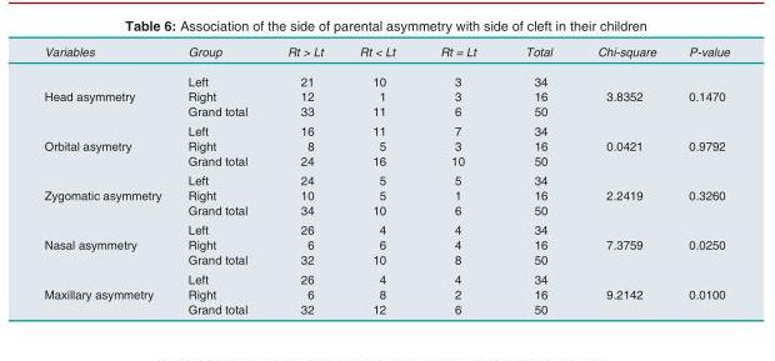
<table><tbody><tr><td rowspan="2">Variables</td><td>Group</td><td>Rt &gt; Lt</td><td>Rt &lt; Lt</td><td>Rt = Lt</td><td>Total</td><td>Chi-square</td><td>P-value</td></tr><tr><td>Left</td><td>21</td><td>10</td><td>3</td><td>34</td><td></td><td></td></tr><tr><td rowspan="3">Head asymmetry</td><td>Right</td><td>12</td><td>1</td><td>3</td><td>16</td><td>3.8352</td><td>0.1470</td></tr><tr><td>Grand total</td><td>33</td><td>11</td><td>6</td><td>50</td><td></td><td></td></tr><tr><td>Left</td><td>16</td><td>11</td><td>7</td><td>34</td><td></td><td></td></tr><tr><td rowspan="3">Orbital asymetry</td><td>Right</td><td>8</td><td>5</td><td>3</td><td>16</td><td>0.0421</td><td>0.9792</td></tr><tr><td>Grand total</td><td>24</td><td>16</td><td>10</td><td>50</td><td></td><td></td></tr><tr><td>Left</td><td>24</td><td>5</td><td>5</td><td>34</td><td></td><td></td></tr><tr><td rowspan="3">Zygomatic asymmetry</td><td>Right</td><td>10</td><td>5</td><td>1</td><td>16</td><td>2.2419</td><td>0.3260</td></tr><tr><td>Grand total</td><td>34</td><td>10</td><td>6</td><td>50</td><td></td><td></td></tr><tr><td>Left</td><td>26</td><td>4</td><td>4</td><td>34</td><td></td><td></td></tr><tr><td rowspan="3">Nasal asymmetry</td><td>Right</td><td>6</td><td>6</td><td>4</td><td>16</td><td>7.3759</td><td>0.0250</td></tr><tr><td>Grand total</td><td>32</td><td>10</td><td>8</td><td>50</td><td></td><td></td></tr><tr><td>Left</td><td>26</td><td>4</td><td>4</td><td>34</td><td></td><td></td></tr><tr><td rowspan="2">Maxillary asymmetry</td><td>Right</td><td>6</td><td>8</td><td>2</td><td>16</td><td>9.2142</td><td>0.0100</td></tr><tr><td>Grand total</td><td>32</td><td>12</td><td>6</td><td>50</td><td></td><td></td></tr></tbody></table>